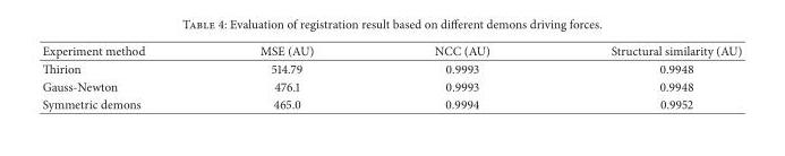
<table><thead><tr><td>Experiment method</td><td>MSE (AU)</td><td>NCC (AU)</td><td>Structural similarity (AU)</td></tr></thead><tbody><tr><td>Thirion</td><td>514.79</td><td>0.9993</td><td>0.9948</td></tr><tr><td>Gauss-Newton</td><td>476.1</td><td>0.9993</td><td>0.9948</td></tr><tr><td>Symmetric demons</td><td>465.0</td><td>0.9994</td><td>0.9952</td></tr></tbody></table>